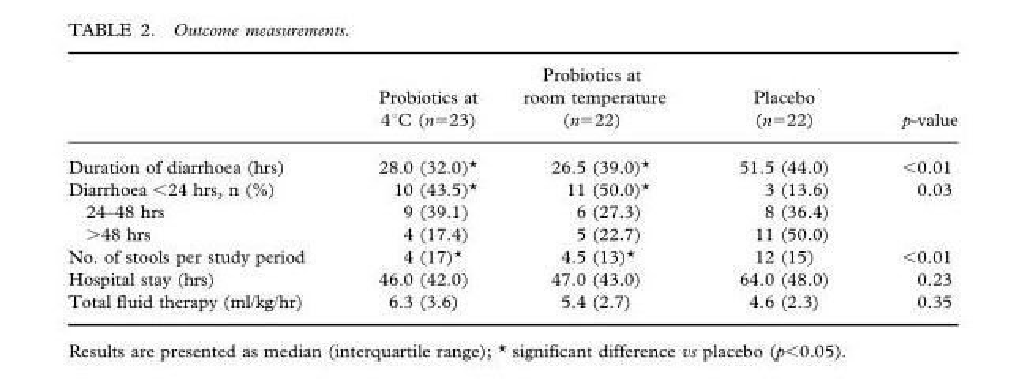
<table><thead><tr><td></td><td>Probiotics at 4°C (n=23)</td><td>Probiotics at room temperature (n=22)</td><td>Placebo (n=22)</td><td>p-value</td></tr></thead><tbody><tr><td>Duration of diarrhoea (hrs)</td><td>28.0 (32.0)*</td><td>26.5 (39.0)*</td><td>51.5 (44.0)</td><td>&lt;0.01</td></tr><tr><td>Diarrhoea &lt;24 hrs, n (%)</td><td>10 (43.5)*</td><td>11 (50.0)*</td><td>3 (13.6)</td><td>0.03</td></tr><tr><td>24–48 hrs</td><td>9 (39.1)</td><td>6 (27.3)</td><td>8 (36.4)</td><td></td></tr><tr><td>&gt;48 hrs</td><td>4 (17.4)</td><td>5 (22.7)</td><td>11 (50.0)</td><td></td></tr><tr><td>No. of stools per study period</td><td>4 (17)*</td><td>4.5 (13)*</td><td>12 (15)</td><td>&lt;0.01</td></tr><tr><td>Hospital stay (hrs)</td><td>46.0 (42.0)</td><td>47.0 (43.0)</td><td>64.0 (48.0)</td><td>0.23</td></tr><tr><td>Total fluid therapy (ml/kg/hr)</td><td>6.3 (3.6)</td><td>5.4 (2.7)</td><td>4.6 (2.3)</td><td>0.35</td></tr></tbody></table>